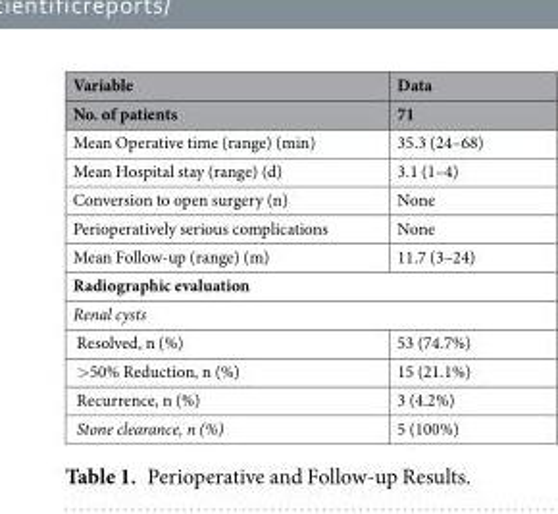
<table><thead><tr><td rowspan="2">Variable No. of patients</td><td rowspan="2">Data 71</td></tr><tr></tr></thead><tbody><tr><td>Mean Operative time (range) (min)</td><td>35.3 (24–68)</td></tr><tr><td>Mean Hospital stay (range) (d)</td><td>3.1 (1–4)</td></tr><tr><td>Conversion to open surgery (n)</td><td>None</td></tr><tr><td>Perioperatively serious complications</td><td>None</td></tr><tr><td>Mean Follow-up (range) (m)</td><td>11.7 (3–24)</td></tr><tr><td colspan="2">Radiographic evaluation</td></tr><tr><td colspan="2">Renal cysts</td></tr><tr><td>Resolved, n (%)</td><td>53 (74.7%)</td></tr><tr><td>&gt;50% Reduction, n (%)</td><td>15 (21.1%)</td></tr><tr><td>Recurrence, n (%)</td><td>3 (4.2%)</td></tr><tr><td>Stone clearance, n (%)</td><td>5 (100%)</td></tr></tbody></table>